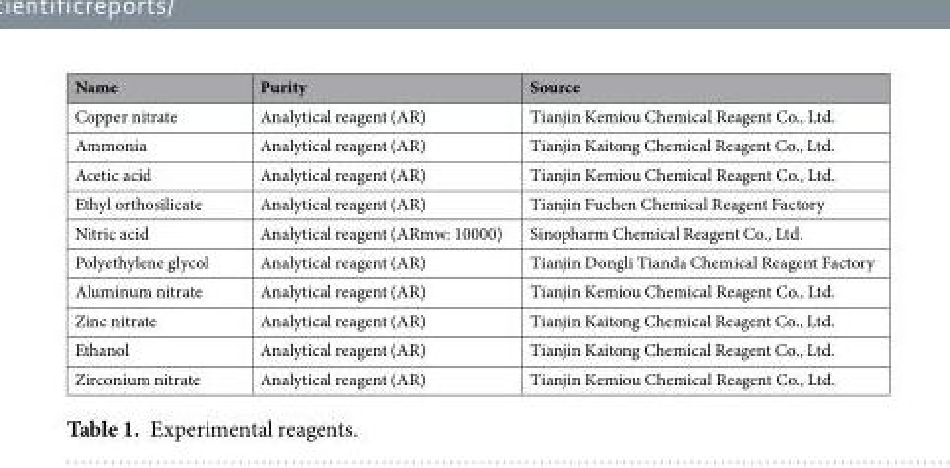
<table><thead><tr><td>Name</td><td>Purity</td><td>Source</td></tr></thead><tbody><tr><td>Copper nitrate</td><td>Analytical reagent (AR)</td><td>Tianjin Kemiou Chemical Reagent Co., Ltd.</td></tr><tr><td>Ammonia</td><td>Analytical reagent (AR)</td><td>Tianjin Kaitong Chemical Reagent Co., Ltd.</td></tr><tr><td>Acetic acid</td><td>Analytical reagent (AR)</td><td>Tianjin Kemiou Chemical Reagent Co., Ltd.</td></tr><tr><td>Ethyl orthosilicate</td><td>Analytical reagent (AR)</td><td>Tianjin Fuchen Chemical Reagent Factory</td></tr><tr><td>Nitric acid</td><td>Analytical reagent (ARmw: 10000)</td><td>Sinopharm Chemical Reagent Co., Ltd.</td></tr><tr><td>Polyethylene glycol</td><td>Analytical reagent (AR)</td><td>Tianjin Dongli Tianda Chemical Reagent Factory</td></tr><tr><td>Aluminum nitrate</td><td>Analytical reagent (AR)</td><td>Tianjin Kemiou Chemical Reagent Co., Ltd.</td></tr><tr><td>Zinc nitrate</td><td>Analytical reagent (AR)</td><td>Tianjin Kaitong Chemical Reagent Co., Ltd.</td></tr><tr><td>Ethanol</td><td>Analytical reagent (AR)</td><td>Tianjin Kaitong Chemical Reagent Co., Ltd.</td></tr><tr><td>Zirconium nitrate</td><td>Analytical reagent (AR)</td><td>Tianjin Kemiou Chemical Reagent Co., Ltd.</td></tr></tbody></table>